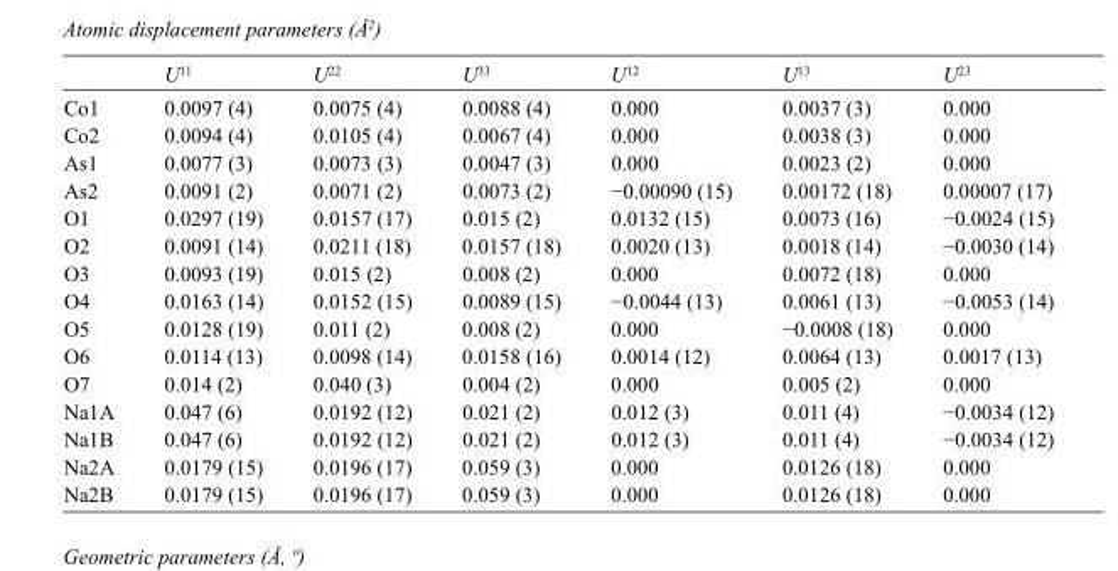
<table><thead><tr><td></td><td>U<sup>11</sup></td><td>U<sup>22</sup></td><td>U<sup>33</sup></td><td>U<sup>12</sup></td><td>U<sup>13</sup></td><td>U<sup>23</sup></td></tr></thead><tbody><tr><td>Co1</td><td>0.0097 (4)</td><td>0.0075 (4)</td><td>0.0088 (4)</td><td>0.000</td><td>0.0037 (3)</td><td>0.000</td></tr><tr><td>Co2</td><td>0.0094 (4)</td><td>0.0105 (4)</td><td>0.0067 (4)</td><td>0.000</td><td>0.0038 (3)</td><td>0.000</td></tr><tr><td>As1</td><td>0.0077 (3)</td><td>0.0073 (3)</td><td>0.0047 (3)</td><td>0.000</td><td>0.0023 (2)</td><td>0.000</td></tr><tr><td>As2</td><td>0.0091 (2)</td><td>0.0071 (2)</td><td>0.0073 (2)</td><td>−0.00090 (15)</td><td>0.00172 (18)</td><td>0.00007 (17)</td></tr><tr><td>O1</td><td>0.0297 (19)</td><td>0.0157 (17)</td><td>0.015 (2)</td><td>0.0132 (15)</td><td>0.0073 (16)</td><td>−0.0024 (15)</td></tr><tr><td>O2</td><td>0.0091 (14)</td><td>0.0211 (18)</td><td>0.0157 (18)</td><td>0.0020 (13)</td><td>0.0018 (14)</td><td>−0.0030 (14)</td></tr><tr><td>O3</td><td>0.0093 (19)</td><td>0.015 (2)</td><td>0.008 (2)</td><td>0.000</td><td>0.0072 (18)</td><td>0.000</td></tr><tr><td>O4</td><td>0.0163 (14)</td><td>0.0152 (15)</td><td>0.0089 (15)</td><td>−0.0044 (13)</td><td>0.0061 (13)</td><td>−0.0053 (14)</td></tr><tr><td>O5</td><td>0.0128 (19)</td><td>0.011 (2)</td><td>0.008 (2)</td><td>0.000</td><td>−0.0008 (18)</td><td>0.000</td></tr><tr><td>O6</td><td>0.0114 (13)</td><td>0.0098 (14)</td><td>0.0158 (16)</td><td>0.0014 (12)</td><td>0.0064 (13)</td><td>0.0017 (13)</td></tr><tr><td>O7</td><td>0.014 (2)</td><td>0.040 (3)</td><td>0.004 (2)</td><td>0.000</td><td>0.005 (2)</td><td>0.000</td></tr><tr><td>Na1A</td><td>0.047 (6)</td><td>0.0192 (12)</td><td>0.021 (2)</td><td>0.012 (3)</td><td>0.011 (4)</td><td>−0.0034 (12)</td></tr><tr><td>Na1B</td><td>0.047 (6)</td><td>0.0192 (12)</td><td>0.021 (2)</td><td>0.012 (3)</td><td>0.011 (4)</td><td>−0.0034 (12)</td></tr><tr><td>Na2A</td><td>0.0179 (15)</td><td>0.0196 (17)</td><td>0.059 (3)</td><td>0.000</td><td>0.0126 (18)</td><td>0.000</td></tr><tr><td>Na2B</td><td>0.0179 (15)</td><td>0.0196 (17)</td><td>0.059 (3)</td><td>0.000</td><td>0.0126 (18)</td><td>0.000</td></tr></tbody></table>